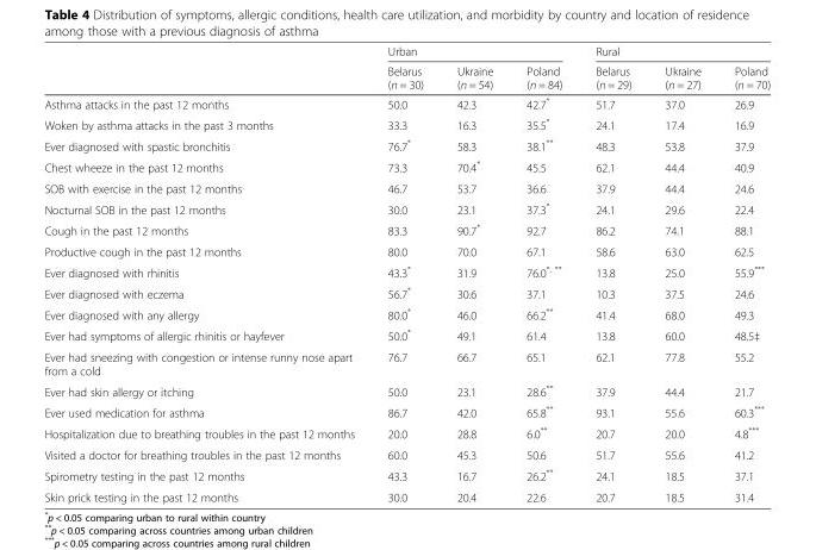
<table><thead><tr><td rowspan="2"></td><td colspan="3">Urban</td><td colspan="3">Rural</td></tr><tr><td>Belarus (n = 30)</td><td>Ukraine (n = 54)</td><td>Poland (n = 84)</td><td>Belarus (n = 29)</td><td>Ukraine (n = 27)</td><td>Poland (n = 70)</td></tr></thead><tbody><tr><td>Asthma attacks in the past 12 months</td><td>50.0</td><td>42.3</td><td>42.7*</td><td>51.7</td><td>37.0</td><td>26.9</td></tr><tr><td>Woken by asthma attacks in the past 3 months</td><td>33.3</td><td>16.3</td><td>35.5*</td><td>24.1</td><td>17.4</td><td>16.9</td></tr><tr><td>Ever diagnosed with spastic bronchitis</td><td>76.7*</td><td>58.3</td><td>38.1**</td><td>48.3</td><td>53.8</td><td>37.9</td></tr><tr><td>Chest wheeze in the past 12 months</td><td>73.3</td><td>70.4*</td><td>45.5</td><td>62.1</td><td>44.4</td><td>40.9</td></tr><tr><td>SOB with exercise in the past 12 months</td><td>46.7</td><td>53.7</td><td>36.6</td><td>37.9</td><td>44.4</td><td>24.6</td></tr><tr><td>Nocturnal SOB in the past 12 months</td><td>30.0</td><td>23.1</td><td>37.3*</td><td>24.1</td><td>29.6</td><td>22.4</td></tr><tr><td>Cough in the past 12 months</td><td>83.3</td><td>90.7*</td><td>92.7</td><td>86.2</td><td>74.1</td><td>88.1</td></tr><tr><td>Productive cough in the past 12 months</td><td>80.0</td><td>70.0</td><td>67.1</td><td>58.6</td><td>63.0</td><td>62.5</td></tr><tr><td>Ever diagnosed with rhinitis</td><td>43.3*</td><td>31.9</td><td>76.0<sup>*, **</sup></td><td>13.8</td><td>25.0</td><td>55.9***</td></tr><tr><td>Ever diagnosed with eczema</td><td>56.7*</td><td>30.6</td><td>37.1</td><td>10.3</td><td>37.5</td><td>24.6</td></tr><tr><td>Ever diagnosed with any allergy</td><td>80.0*</td><td>46.0</td><td>66.2**</td><td>41.4</td><td>68.0</td><td>49.3</td></tr><tr><td>Ever had symptoms of allergic rhinitis or hayfever</td><td>50.0*</td><td>49.1</td><td>61.4</td><td>13.8</td><td>60.0</td><td>48.5‡</td></tr><tr><td>Ever had sneezing with congestion or intense runny nose apart from a cold</td><td>76.7</td><td>66.7</td><td>65.1</td><td>62.1</td><td>77.8</td><td>55.2</td></tr><tr><td>Ever had skin allergy or itching</td><td>50.0</td><td>23.1</td><td>28.6**</td><td>37.9</td><td>44.4</td><td>21.7</td></tr><tr><td>Ever used medication for asthma</td><td>86.7</td><td>42.0</td><td>65.8**</td><td>93.1</td><td>55.6</td><td>60.3***</td></tr><tr><td>Hospitalization due to breathing troubles in the past 12 months</td><td>20.0</td><td>28.8</td><td>6.0**</td><td>20.7</td><td>20.0</td><td>4.8***</td></tr><tr><td>Visited a doctor for breathing troubles in the past 12 months</td><td>60.0</td><td>45.3</td><td>50.6</td><td>51.7</td><td>55.6</td><td>41.2</td></tr><tr><td>Spirometry testing in the past 12 months</td><td>43.3</td><td>16.7</td><td>26.2**</td><td>24.1</td><td>18.5</td><td>37.1</td></tr><tr><td>Skin prick testing in the past 12 months</td><td>30.0</td><td>20.4</td><td>22.6</td><td>20.7</td><td>18.5</td><td>31.4</td></tr></tbody></table>